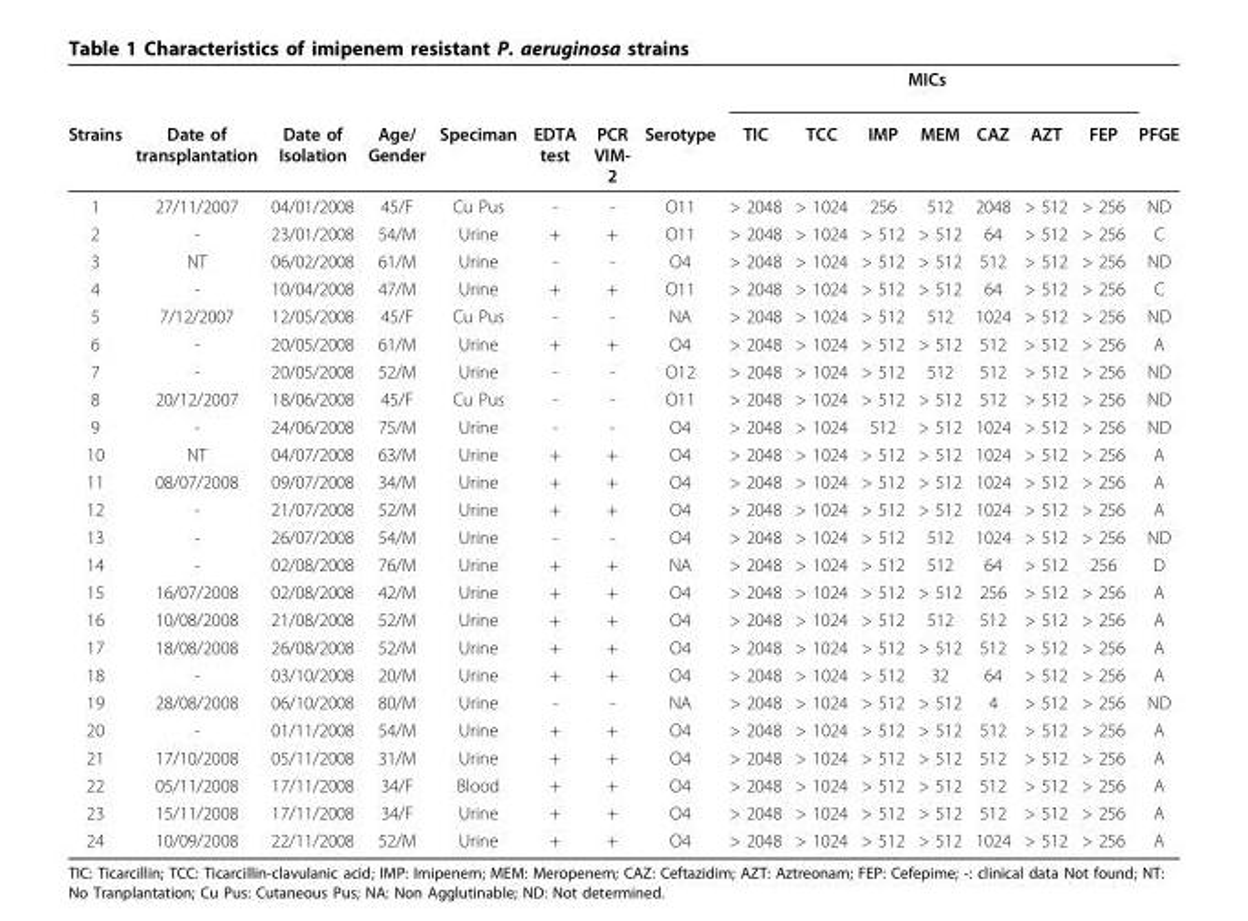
<table><thead><tr><td rowspan="2">Strains</td><td rowspan="2">Date of transplantation</td><td rowspan="2">Date of Isolation</td><td rowspan="2">Age/ Gender</td><td rowspan="2">Speciman</td><td rowspan="2">EDTA test</td><td rowspan="2">PCR VIM- 2</td><td rowspan="2">Serotype</td><td colspan="7">MICs</td><td rowspan="2">PFGE</td></tr><tr><td>TIC</td><td>TCC</td><td>IMP</td><td>MEM</td><td>CAZ</td><td>AZT</td><td>FEP</td></tr></thead><tbody><tr><td>1</td><td>27/11/2007</td><td>04/01/2008</td><td>45/F</td><td>Cu Pus</td><td>-</td><td>-</td><td>O11</td><td>&gt; 2048</td><td>&gt; 1024</td><td>256</td><td>512</td><td>2048</td><td>&gt; 512</td><td>&gt; 256</td><td>ND</td></tr><tr><td>2</td><td>-</td><td>23/01/2008</td><td>54/M</td><td>Urine</td><td>+</td><td>+</td><td>O11</td><td>&gt; 2048</td><td>&gt; 1024</td><td>&gt; 512</td><td>&gt; 512</td><td>64</td><td>&gt; 512</td><td>&gt; 256</td><td>C</td></tr><tr><td>3</td><td>NT</td><td>06/02/2008</td><td>61/M</td><td>Urine</td><td>-</td><td>-</td><td>O4</td><td>&gt; 2048</td><td>&gt; 1024</td><td>&gt; 512</td><td>&gt; 512</td><td>512</td><td>&gt; 512</td><td>&gt; 256</td><td>ND</td></tr><tr><td>4</td><td>-</td><td>10/04/2008</td><td>47/M</td><td>Urine</td><td>+</td><td>+</td><td>O11</td><td>&gt; 2048</td><td>&gt; 1024</td><td>&gt; 512</td><td>&gt; 512</td><td>64</td><td>&gt; 512</td><td>&gt; 256</td><td>C</td></tr><tr><td>5</td><td>7/12/2007</td><td>12/05/2008</td><td>45/F</td><td>Cu Pus</td><td>-</td><td>-</td><td>NA</td><td>&gt; 2048</td><td>&gt; 1024</td><td>&gt; 512</td><td>512</td><td>1024</td><td>&gt; 512</td><td>&gt; 256</td><td>ND</td></tr><tr><td>6</td><td>-</td><td>20/05/2008</td><td>61/M</td><td>Urine</td><td>+</td><td>+</td><td>O4</td><td>&gt; 2048</td><td>&gt; 1024</td><td>&gt; 512</td><td>&gt; 512</td><td>512</td><td>&gt; 512</td><td>&gt; 256</td><td>A</td></tr><tr><td>7</td><td>-</td><td>20/05/2008</td><td>52/M</td><td>Urine</td><td>-</td><td>-</td><td>O12</td><td>&gt; 2048</td><td>&gt; 1024</td><td>&gt; 512</td><td>512</td><td>512</td><td>&gt; 512</td><td>&gt; 256</td><td>ND</td></tr><tr><td>8</td><td>20/12/2007</td><td>18/06/2008</td><td>45/F</td><td>Cu Pus</td><td>-</td><td>-</td><td>O11</td><td>&gt; 2048</td><td>&gt; 1024</td><td>&gt; 512</td><td>&gt; 512</td><td>512</td><td>&gt; 512</td><td>&gt; 256</td><td>ND</td></tr><tr><td>9</td><td>-</td><td>24/06/2008</td><td>75/M</td><td>Urine</td><td>-</td><td>-</td><td>O4</td><td>&gt; 2048</td><td>&gt; 1024</td><td>512</td><td>&gt; 512</td><td>1024</td><td>&gt; 512</td><td>&gt; 256</td><td>ND</td></tr><tr><td>10</td><td>NT</td><td>04/07/2008</td><td>63/M</td><td>Urine</td><td>+</td><td>+</td><td>O4</td><td>&gt; 2048</td><td>&gt; 1024</td><td>&gt; 512</td><td>&gt; 512</td><td>1024</td><td>&gt; 512</td><td>&gt; 256</td><td>A</td></tr><tr><td>11</td><td>08/07/2008</td><td>09/07/2008</td><td>34/M</td><td>Urine</td><td>+</td><td>+</td><td>O4</td><td>&gt; 2048</td><td>&gt; 1024</td><td>&gt; 512</td><td>&gt; 512</td><td>1024</td><td>&gt; 512</td><td>&gt; 256</td><td>A</td></tr><tr><td>12</td><td>-</td><td>21/07/2008</td><td>52/M</td><td>Urine</td><td>+</td><td>+</td><td>O4</td><td>&gt; 2048</td><td>&gt; 1024</td><td>&gt; 512</td><td>&gt; 512</td><td>1024</td><td>&gt; 512</td><td>&gt; 256</td><td>A</td></tr><tr><td>13</td><td>-</td><td>26/07/2008</td><td>54/M</td><td>Urine</td><td>-</td><td>-</td><td>O4</td><td>&gt; 2048</td><td>&gt; 1024</td><td>&gt; 512</td><td>512</td><td>1024</td><td>&gt; 512</td><td>&gt; 256</td><td>ND</td></tr><tr><td>14</td><td>-</td><td>02/08/2008</td><td>76/M</td><td>Urine</td><td>+</td><td>+</td><td>NA</td><td>&gt; 2048</td><td>&gt; 1024</td><td>&gt; 512</td><td>512</td><td>64</td><td>&gt; 512</td><td>256</td><td>D</td></tr><tr><td>15</td><td>16/07/2008</td><td>02/08/2008</td><td>42/M</td><td>Urine</td><td>+</td><td>+</td><td>O4</td><td>&gt; 2048</td><td>&gt; 1024</td><td>&gt; 512</td><td>&gt; 512</td><td>256</td><td>&gt; 512</td><td>&gt; 256</td><td>A</td></tr><tr><td>16</td><td>10/08/2008</td><td>21/08/2008</td><td>52/M</td><td>Urine</td><td>+</td><td>+</td><td>O4</td><td>&gt; 2048</td><td>&gt; 1024</td><td>&gt; 512</td><td>512</td><td>512</td><td>&gt; 512</td><td>&gt; 256</td><td>A</td></tr><tr><td>17</td><td>18/08/2008</td><td>26/08/2008</td><td>52/M</td><td>Urine</td><td>+</td><td>+</td><td>O4</td><td>&gt; 2048</td><td>&gt; 1024</td><td>&gt; 512</td><td>&gt; 512</td><td>512</td><td>&gt; 512</td><td>&gt; 256</td><td>A</td></tr><tr><td>18</td><td>-</td><td>03/10/2008</td><td>20/M</td><td>Urine</td><td>+</td><td>+</td><td>O4</td><td>&gt; 2048</td><td>&gt; 1024</td><td>&gt; 512</td><td>32</td><td>64</td><td>&gt; 512</td><td>&gt; 256</td><td>A</td></tr><tr><td>19</td><td>28/08/2008</td><td>06/10/2008</td><td>80/M</td><td>Urine</td><td>-</td><td>-</td><td>NA</td><td>&gt; 2048</td><td>&gt; 1024</td><td>&gt; 512</td><td>&gt; 512</td><td>4</td><td>&gt; 512</td><td>&gt; 256</td><td>ND</td></tr><tr><td>20</td><td>-</td><td>01/11/2008</td><td>54/M</td><td>Urine</td><td>+</td><td>+</td><td>O4</td><td>&gt; 2048</td><td>&gt; 1024</td><td>&gt; 512</td><td>&gt; 512</td><td>512</td><td>&gt; 512</td><td>&gt; 256</td><td>A</td></tr><tr><td>21</td><td>17/10/2008</td><td>05/11/2008</td><td>31/M</td><td>Urine</td><td>+</td><td>+</td><td>O4</td><td>&gt; 2048</td><td>&gt; 1024</td><td>&gt; 512</td><td>&gt; 512</td><td>512</td><td>&gt; 512</td><td>&gt; 256</td><td>A</td></tr><tr><td>22</td><td>05/11/2008</td><td>17/11/2008</td><td>34/F</td><td>Blood</td><td>+</td><td>+</td><td>O4</td><td>&gt; 2048</td><td>&gt; 1024</td><td>&gt; 512</td><td>&gt; 512</td><td>512</td><td>&gt; 512</td><td>&gt; 256</td><td>A</td></tr><tr><td>23</td><td>15/11/2008</td><td>17/11/2008</td><td>34/F</td><td>Urine</td><td>+</td><td>+</td><td>O4</td><td>&gt; 2048</td><td>&gt; 1024</td><td>&gt; 512</td><td>&gt; 512</td><td>512</td><td>&gt; 512</td><td>&gt; 256</td><td>A</td></tr><tr><td>24</td><td>10/09/2008</td><td>22/11/2008</td><td>52/M</td><td>Urine</td><td>+</td><td>+</td><td>O4</td><td>&gt; 2048</td><td>&gt; 1024</td><td>&gt; 512</td><td>&gt; 512</td><td>1024</td><td>&gt; 512</td><td>&gt; 256</td><td>A</td></tr></tbody></table>